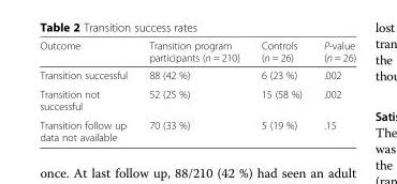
<table><thead><tr><td>Outcome</td><td>Transition program participants (n = 210)</td><td>Controls (n = 26)</td><td>P-value (n = 26)</td></tr></thead><tbody><tr><td>Transition successful</td><td>88 (42 %)</td><td>6 (23 %)</td><td>.002</td></tr><tr><td>Transition not successful</td><td>52 (25 %)</td><td>15 (58 %)</td><td>.002</td></tr><tr><td>Transition follow up data not available</td><td>70 (33 %)</td><td>5 (19 %)</td><td>.15</td></tr></tbody></table>